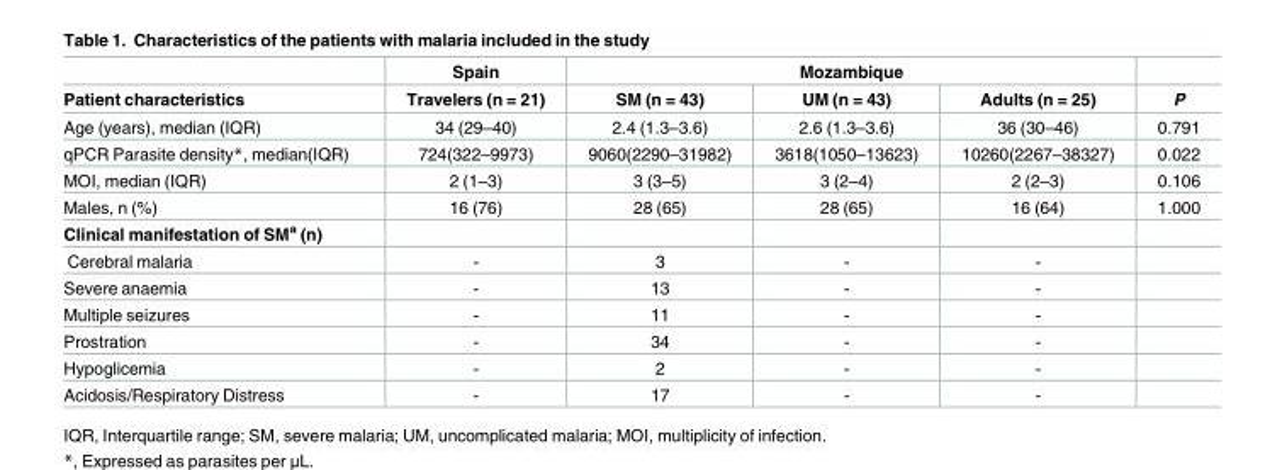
<table><thead><tr><td rowspan="2">Patient characteristics</td><td rowspan="2">Spain Travelers (n = 21)</td><td colspan="3">Mozambique</td><td rowspan="2">P</td></tr><tr><td>SM (n = 43)</td><td>UM (n = 43)</td><td>Adults (n = 25)</td></tr></thead><tbody><tr><td>Age (years), median (IQR)</td><td>34 (29–40)</td><td>2.4 (1.3–3.6)</td><td>2.6 (1.3–3.6)</td><td>36 (30–46)</td><td>0.791</td></tr><tr><td>qPCR Parasite density*, median(IQR)</td><td>724(322–9973)</td><td>9060(2290–31982)</td><td>3618(1050–13623)</td><td>10260(2267–38327)</td><td>0.022</td></tr><tr><td>MOI, median (IQR)</td><td>2 (1–3)</td><td>3 (3–5)</td><td>3 (2–4)</td><td>2 (2–3)</td><td>0.106</td></tr><tr><td>Males, n (%)</td><td>16 (76)</td><td>28 (65)</td><td>28 (65)</td><td>16 (64)</td><td>1.000</td></tr><tr><td colspan="6">Clinical manifestation of SM<sup>a</sup> (n)</td></tr><tr><td>Cerebral malaria</td><td>-</td><td>3</td><td>-</td><td>-</td><td></td></tr><tr><td>Severe anaemia</td><td>-</td><td>13</td><td>-</td><td>-</td><td></td></tr><tr><td>Multiple seizures</td><td>-</td><td>11</td><td>-</td><td>-</td><td></td></tr><tr><td>Prostration</td><td>-</td><td>34</td><td>-</td><td>-</td><td></td></tr><tr><td>Hypoglicemia</td><td>-</td><td>2</td><td>-</td><td>-</td><td></td></tr><tr><td>Acidosis/Respiratory Distress</td><td>-</td><td>17</td><td>-</td><td>-</td><td></td></tr></tbody></table>